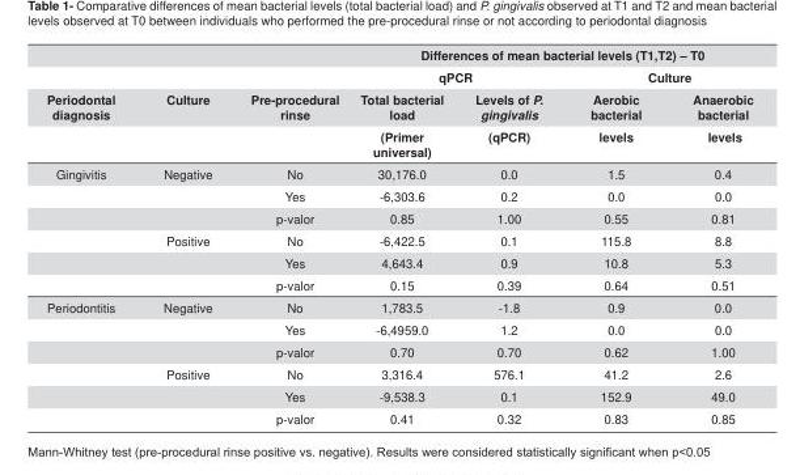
<table><thead><tr><td rowspan="4">Periodontal diagnosis</td><td rowspan="4">Culture</td><td rowspan="4">Pre-procedural rinse</td><td colspan="4">Differences of mean bacterial levels (T1,T2) – T0</td></tr><tr><td colspan="2">qPCR</td><td colspan="2">Culture</td></tr><tr><td rowspan="2">Total bacterial load (Primer universal)</td><td rowspan="2">Levels of P. gingivalis (qPCR)</td><td rowspan="2">Aerobic bacterial levels</td><td rowspan="2">Anaerobic bacterial levels</td></tr><tr></tr></thead><tbody><tr><td rowspan="6">Gingivitis</td><td>Negative</td><td>No</td><td>30,176.0</td><td>0.0</td><td>1.5</td><td>0.4</td></tr><tr><td></td><td>Yes</td><td>-6,303.6</td><td>0.2</td><td>0.0</td><td>0.0</td></tr><tr><td></td><td>p-valor</td><td>0.85</td><td>1.00</td><td>0.55</td><td>0.81</td></tr><tr><td>Positive</td><td>No</td><td>-6,422.5</td><td>0.1</td><td>115.8</td><td>8.8</td></tr><tr><td></td><td>Yes</td><td>4,643.4</td><td>0.9</td><td>10.8</td><td>5.3</td></tr><tr><td></td><td>p-valor</td><td>0.15</td><td>0.39</td><td>0.64</td><td>0.51</td></tr><tr><td rowspan="6">Periodontitis</td><td>Negative</td><td>No</td><td>1,783.5</td><td>-1.8</td><td>0.9</td><td>0.0</td></tr><tr><td></td><td>Yes</td><td>-6,4959.0</td><td>1.2</td><td>0.0</td><td>0.0</td></tr><tr><td></td><td>p-valor</td><td>0.70</td><td>0.70</td><td>0.62</td><td>1.00</td></tr><tr><td>Positive</td><td>No</td><td>3,316.4</td><td>576.1</td><td>41.2</td><td>2.6</td></tr><tr><td></td><td>Yes</td><td>-9,538.3</td><td>0.1</td><td>152.9</td><td>49.0</td></tr><tr><td></td><td>p-valor</td><td>0.41</td><td>0.32</td><td>0.83</td><td>0.85</td></tr></tbody></table>